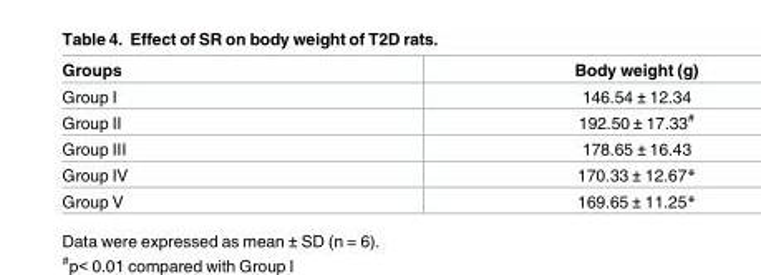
<table><thead><tr><td>Groups</td><td>Body weight (g)</td></tr></thead><tbody><tr><td>Group I</td><td>146.54 ± 12.34</td></tr><tr><td>Group II</td><td>192.50 ± 17.33<sup>#</sup></td></tr><tr><td>Group III</td><td>178.65 ± 16.43</td></tr><tr><td>Group IV</td><td>170.33 ± 12.67*</td></tr><tr><td>Group V</td><td>169.65 ± 11.25*</td></tr></tbody></table>